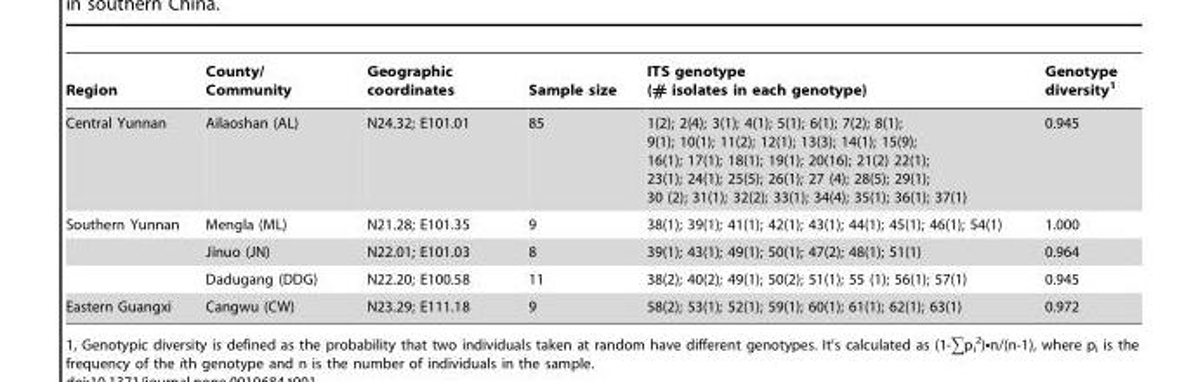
<table><thead><tr><td>Region</td><td>County/ Community</td><td>Geographic coordinates</td><td>Sample size</td><td>ITS genotype (# isolates in each genotype)</td><td>Genotype diversity<sup>1</sup></td></tr></thead><tbody><tr><td>Central Yunnan</td><td>Ailaoshan (AL)</td><td>N24.32; E101.01</td><td>85</td><td>1(2); 2(4); 3(1); 4(1); 5(1); 6(1); 7(2); 8(1); 9(1); 10(1); 11(2); 12(1); 13(3); 14(1); 15(9); 16(1); 17(1); 18(1); 19(1); 20(16); 21(2) 22(1); 23(1); 24(1); 25(5); 26(1); 27 (4); 28(5); 29(1); 30 (2); 31(1); 32(2); 33(1); 34(4); 35(1); 36(1); 37(1)</td><td>0.945</td></tr><tr><td rowspan="3">Southern Yunnan</td><td>Mengla (ML)</td><td>N21.28; E101.35</td><td>9</td><td>38(1); 39(1); 41(1); 42(1); 43(1); 44(1); 45(1); 46(1); 54(1)</td><td>1.000</td></tr><tr><td>Jinuo (JN)</td><td>N22.01; E101.03</td><td>8</td><td>39(1); 43(1); 49(1); 50(1); 47(2); 48(1); 51(1)</td><td>0.964</td></tr><tr><td>Dadugang (DDG)</td><td>N22.20; E100.58</td><td>11</td><td>38(2); 40(2); 49(1); 50(2); 51(1); 55 (1); 56(1); 57(1)</td><td>0.945</td></tr><tr><td>Eastern Guangxi</td><td>Cangwu (CW)</td><td>N23.29; E111.18</td><td>9</td><td>58(2); 53(1); 52(1); 59(1); 60(1); 61(1); 62(1); 63(1)</td><td>0.972</td></tr></tbody></table>